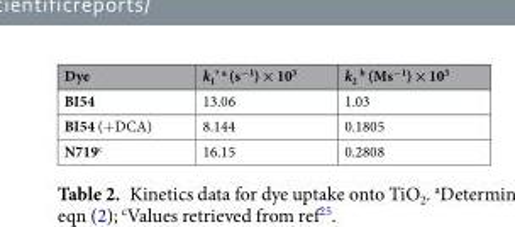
<table><thead><tr><td>Dye</td><td>k<sub>1</sub>’ <sup>a</sup> (s<sup>−1</sup>) × 10<sup>3</sup></td><td>k<sub>2</sub> <sup>b</sup> (Ms<sup>−1</sup>) × 10<sup>3</sup></td></tr></thead><tbody><tr><td>BI54</td><td>13.06</td><td>1.03</td></tr><tr><td>BI54 (+DCA)</td><td>8.144</td><td>0.1805</td></tr><tr><td>N719<sup>c</sup></td><td>16.15</td><td>0.2808</td></tr></tbody></table>